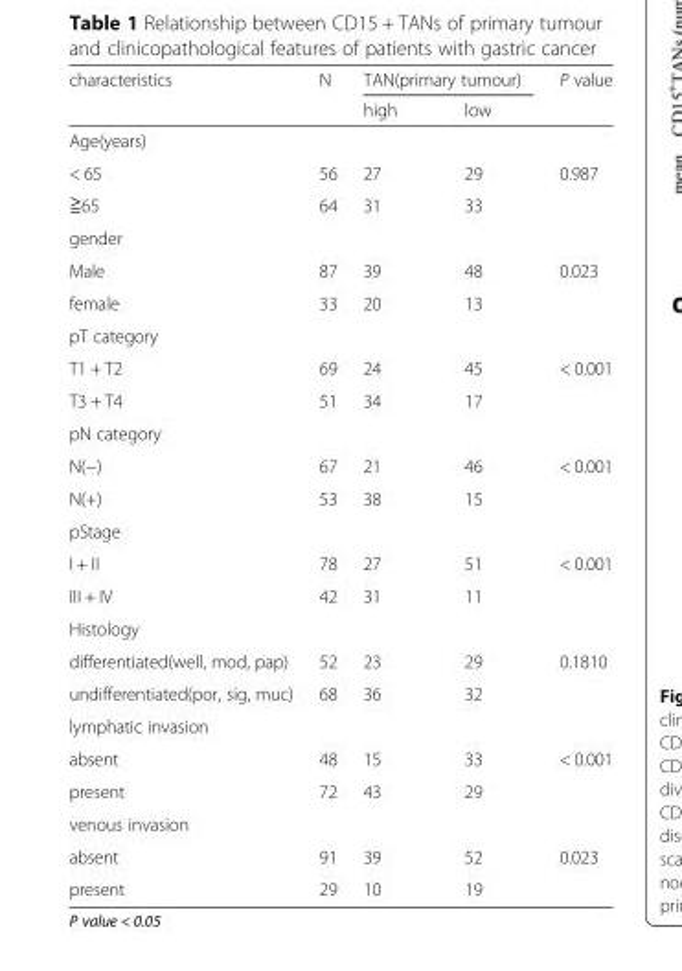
<table><thead><tr><td rowspan="2">characteristics</td><td rowspan="2">N</td><td colspan="2">TAN(primary tumour)</td><td rowspan="2">P value</td></tr><tr><td>high</td><td>low</td></tr></thead><tbody><tr><td colspan="5">Age(years)</td></tr><tr><td>&lt; 65</td><td>56</td><td>27</td><td>29</td><td rowspan="2">0.987</td></tr><tr><td>≧65</td><td>64</td><td>31</td><td>33</td></tr><tr><td colspan="5">gender</td></tr><tr><td>Male</td><td>87</td><td>39</td><td>48</td><td rowspan="2">0.023</td></tr><tr><td>female</td><td>33</td><td>20</td><td>13</td></tr><tr><td colspan="5">pT category</td></tr><tr><td>T1 + T2</td><td>69</td><td>24</td><td>45</td><td>&lt; 0.001</td></tr><tr><td>T3 + T4</td><td>51</td><td>34</td><td>17</td><td></td></tr><tr><td colspan="5">pN category</td></tr><tr><td>N(−)</td><td>67</td><td>21</td><td>46</td><td rowspan="2">&lt; 0.001</td></tr><tr><td>N(+)</td><td>53</td><td>38</td><td>15</td></tr><tr><td colspan="5">pStage</td></tr><tr><td>I + II</td><td>78</td><td>27</td><td>51</td><td rowspan="2">&lt; 0.001</td></tr><tr><td>III + IV</td><td>42</td><td>31</td><td>11</td></tr><tr><td colspan="5">Histology</td></tr><tr><td>differentiated(well, mod, pap)</td><td>52</td><td>23</td><td>29</td><td rowspan="2">0.1810</td></tr><tr><td>undifferentiated(por, sig, muc)</td><td>68</td><td>36</td><td>32</td></tr><tr><td colspan="5">lymphatic invasion</td></tr><tr><td>absent</td><td>48</td><td>15</td><td>33</td><td rowspan="2">&lt; 0.001</td></tr><tr><td>present</td><td>72</td><td>43</td><td>29</td></tr><tr><td colspan="5">venous invasion</td></tr><tr><td>absent</td><td>91</td><td>39</td><td>52</td><td rowspan="2">0.023</td></tr><tr><td>present</td><td>29</td><td>10</td><td>19</td></tr></tbody></table>